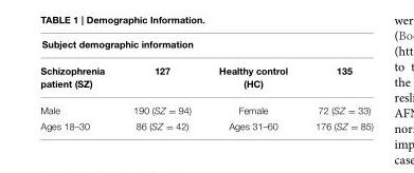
<table><thead><tr><td colspan="4">Subject demographic information</td></tr><tr><td>Schizophrenia patient (SZ)</td><td>127</td><td>Healthy control (HC)</td><td>135</td></tr></thead><tbody><tr><td>Male</td><td>190 (SZ = 94)</td><td>Female</td><td>72 (SZ = 33)</td></tr><tr><td>Ages 18–30</td><td>86 (SZ = 42)</td><td>Ages 31–60</td><td>176 (SZ = 85)</td></tr></tbody></table>